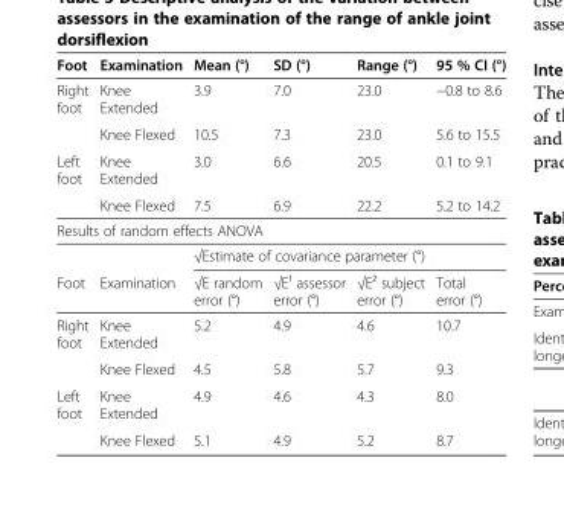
<table><thead><tr><td>Foot</td><td>Examination</td><td>Mean (°)</td><td>SD (°)</td><td>Range (°)</td><td>95 % CI (°)</td></tr></thead><tbody><tr><td rowspan="2">Right foot</td><td>Knee Extended</td><td>3.9</td><td>7.0</td><td>23.0</td><td>−0.8 to 8.6</td></tr><tr><td>Knee Flexed</td><td>10.5</td><td>7.3</td><td>23.0</td><td>5.6 to 15.5</td></tr><tr><td rowspan="2">Left foot</td><td>Knee Extended</td><td>3.0</td><td>6.6</td><td>20.5</td><td>0.1 to 9.1</td></tr><tr><td>Knee Flexed</td><td>7.5</td><td>6.9</td><td>22.2</td><td>5.2 to 14.2</td></tr><tr><td colspan="6">Results of random effects ANOVA</td></tr><tr><td></td><td></td><td colspan="4">√Estimate of covariance parameter (°)</td></tr><tr><td>Foot</td><td>Examination</td><td>√E random error (°)</td><td>√E¹ assessor error (°)</td><td>√E² subject error (°)</td><td>Total error (°)</td></tr><tr><td rowspan="2">Right foot</td><td>Knee Extended</td><td>5.2</td><td>4.9</td><td>4.6</td><td>10.7</td></tr><tr><td>Knee Flexed</td><td>4.5</td><td>5.8</td><td>5.7</td><td>9.3</td></tr><tr><td rowspan="2">Left foot</td><td>Knee Extended</td><td>4.9</td><td>4.6</td><td>4.3</td><td>8.0</td></tr><tr><td>Knee Flexed</td><td>5.1</td><td>4.9</td><td>5.2</td><td>8.7</td></tr></tbody></table>